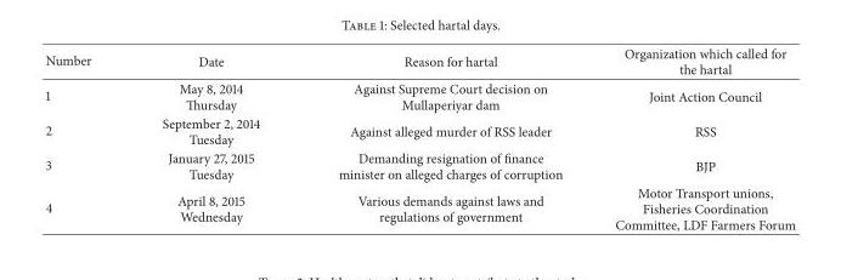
<table><thead><tr><td>Number</td><td>Date</td><td>Reason for hartal</td><td>Organization which called for the hartal</td></tr></thead><tbody><tr><td>1</td><td>May 8, 2014 Thursday</td><td>Against Supreme Court decision on Mullaperiyar dam</td><td>Joint Action Council</td></tr><tr><td>2</td><td>September 2, 2014 Tuesday</td><td>Against alleged murder of RSS leader</td><td>RSS</td></tr><tr><td>3</td><td>January 27, 2015 Tuesday</td><td>Demanding resignation of finance minister on alleged charges of corruption</td><td>BJP</td></tr><tr><td>4</td><td>April 8, 2015 Wednesday</td><td>Various demands against laws and regulations of government</td><td>Motor Transport unions, Fisheries Coordination Committee, LDF Farmers Forum</td></tr></tbody></table>